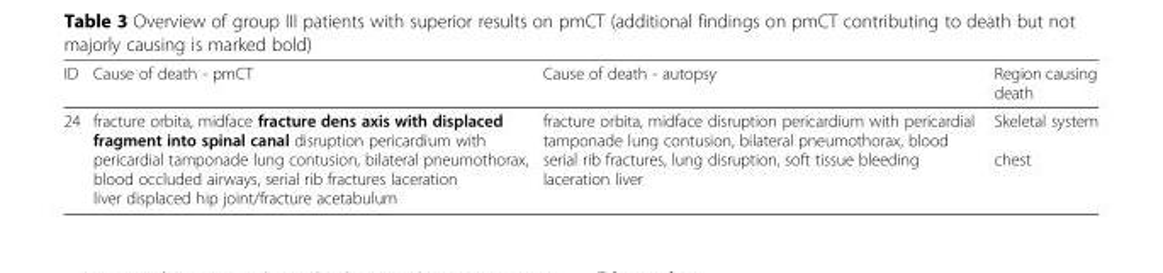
<table><thead><tr><td>ID</td><td>Cause of death - pmCT</td><td>Cause of death - autopsy</td><td>Region causing death</td></tr></thead><tbody><tr><td>24</td><td>fracture orbita, midface fracture dens axis with displaced fragment into spinal canal disruption pericardium with pericardial tamponade lung contusion, bilateral pneumothorax, blood occluded airways, serial rib fractures laceration liver displaced hip joint/fracture acetabulum</td><td>fracture orbita, midface disruption pericardium with pericardial tamponade lung contusion, bilateral pneumothorax, blood serial rib fractures, lung disruption, soft tissue bleeding laceration liver</td><td>Skeletal system chest</td></tr></tbody></table>